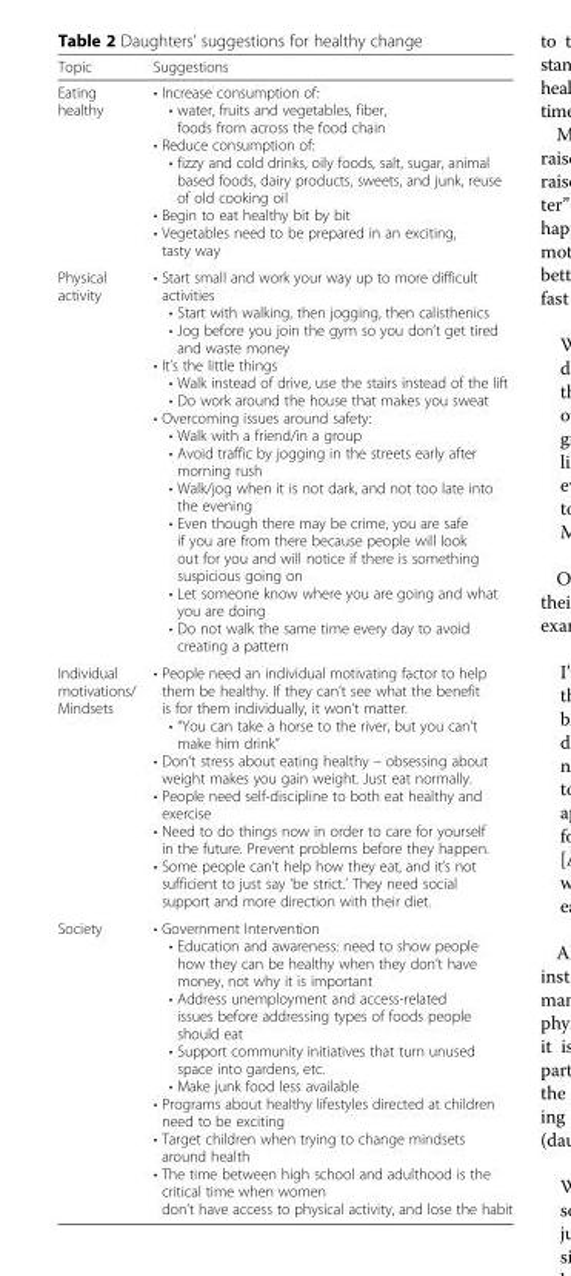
<table><thead><tr><td>Topic</td><td>Suggestions</td></tr></thead><tbody><tr><td>Eating healthy</td><td>• Increase consumption of: • water, fruits and vegetables, fiber, foods from across the food chain • Reduce consumption of: • fizzy and cold drinks, oily foods, salt, sugar, animal based foods, dairy products, sweets, and junk, reuse of old cooking oil • Begin to eat healthy bit by bit • Vegetables need to be prepared in an exciting, tasty way</td></tr><tr><td>Physical activity</td><td>• Start small and work your way up to more difficult activities • Start with walking, then jogging, then calisthenics • Jog before you join the gym so you don’t get tired and waste money • It’s the little things • Walk instead of drive, use the stairs instead of the lift • Do work around the house that makes you sweat • Overcoming issues around safety: • Walk with a friend/in a group • Avoid traffic by jogging in the streets early after morning rush • Walk/jog when it is not dark, and not too late into the evening • Even though there may be crime, you are safe if you are from there because people will look out for you and will notice if there is something suspicious going on • Let someone know where you are going and what you are doing • Do not walk the same time every day to avoid creating a pattern</td></tr><tr><td>Individual motivations/ Mindsets</td><td>• People need an individual motivating factor to help them be healthy. If they can’t see what the benefit is for them individually, it won’t matter. • “You can take a horse to the river, but you can’t make him drink” • Don’t stress about eating healthy – obsessing about weight makes you gain weight. Just eat normally. • People need self-discipline to both eat healthy and exercise • Need to do things now in order to care for yourself in the future. Prevent problems before they happen. • Some people can’t help how they eat, and it’s not sufficient to just say ‘be strict.’ They need social support and more direction with their diet.</td></tr><tr><td>Society</td><td>• Government Intervention • Education and awareness: need to show people how they can be healthy when they don’t have money, not why it is important • Address unemployment and access-related issues before addressing types of foods people should eat • Support community initiatives that turn unused space into gardens, etc. • Make junk food less available • Programs about healthy lifestyles directed at children need to be exciting • Target children when trying to change mindsets around health • The time between high school and adulthood is the critical time when women don’t have access to physical activity, and lose the habit</td></tr></tbody></table>